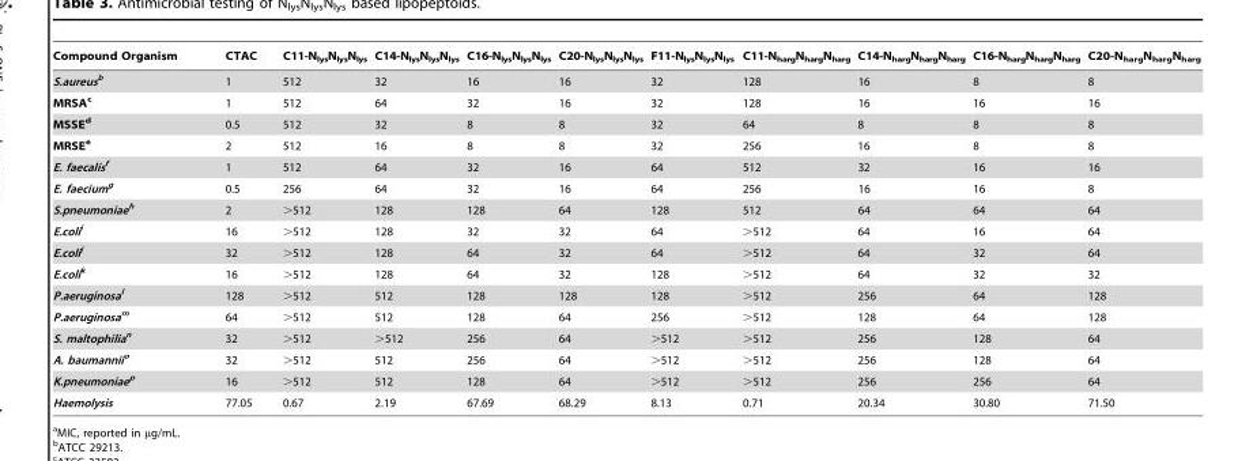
<table><thead><tr><td>Compound Organism</td><td>CTAC</td><td>C11-N<sub>lys</sub>N<sub>lys</sub>N<sub>lys</sub></td><td>C14-N<sub>lys</sub>N<sub>lys</sub>N<sub>lys</sub></td><td>C16-N<sub>lys</sub>N<sub>lys</sub>N<sub>lys</sub></td><td>C20-N<sub>lys</sub>N<sub>lys</sub>N<sub>lys</sub></td><td>F11-N<sub>lys</sub>N<sub>lys</sub>N<sub>lys</sub></td><td>C11-N<sub>harg</sub>N<sub>harg</sub>N<sub>harg</sub></td><td>C14-N<sub>harg</sub>N<sub>harg</sub>N<sub>harg</sub></td><td>C16-N<sub>harg</sub>N<sub>harg</sub>N<sub>harg</sub></td><td>C20-N<sub>harg</sub>N<sub>harg</sub>N<sub>harg</sub></td></tr></thead><tbody><tr><td>S.aureusb</td><td>1</td><td>512</td><td>32</td><td>16</td><td>16</td><td>32</td><td>128</td><td>16</td><td>8</td><td>8</td></tr><tr><td>MRSAc</td><td>1</td><td>512</td><td>64</td><td>32</td><td>16</td><td>32</td><td>128</td><td>16</td><td>16</td><td>16</td></tr><tr><td>MSSEd</td><td>0.5</td><td>512</td><td>32</td><td>8</td><td>8</td><td>32</td><td>64</td><td>8</td><td>8</td><td>8</td></tr><tr><td>MRSEe</td><td>2</td><td>512</td><td>16</td><td>8</td><td>8</td><td>32</td><td>256</td><td>16</td><td>8</td><td>8</td></tr><tr><td>E. faecalisf</td><td>1</td><td>512</td><td>64</td><td>32</td><td>16</td><td>64</td><td>512</td><td>32</td><td>16</td><td>16</td></tr><tr><td>E. faeciumg</td><td>0.5</td><td>256</td><td>64</td><td>32</td><td>16</td><td>64</td><td>256</td><td>16</td><td>16</td><td>8</td></tr><tr><td>S.pneumoniaeh</td><td>2</td><td>&gt;512</td><td>128</td><td>128</td><td>64</td><td>128</td><td>512</td><td>64</td><td>64</td><td>64</td></tr><tr><td>E.colii</td><td>16</td><td>&gt;512</td><td>128</td><td>32</td><td>32</td><td>64</td><td>&gt;512</td><td>64</td><td>16</td><td>64</td></tr><tr><td>E.colij</td><td>32</td><td>&gt;512</td><td>128</td><td>64</td><td>32</td><td>64</td><td>&gt;512</td><td>64</td><td>32</td><td>64</td></tr><tr><td>E.colik</td><td>16</td><td>&gt;512</td><td>128</td><td>64</td><td>32</td><td>128</td><td>&gt;512</td><td>64</td><td>32</td><td>32</td></tr><tr><td>P.aeruginosal</td><td>128</td><td>&gt;512</td><td>512</td><td>128</td><td>128</td><td>128</td><td>&gt;512</td><td>256</td><td>64</td><td>128</td></tr><tr><td>P.aeruginosam</td><td>64</td><td>&gt;512</td><td>512</td><td>128</td><td>64</td><td>256</td><td>&gt;512</td><td>128</td><td>64</td><td>128</td></tr><tr><td>S. maltophilian</td><td>32</td><td>&gt;512</td><td>&gt;512</td><td>256</td><td>64</td><td>&gt;512</td><td>&gt;512</td><td>256</td><td>128</td><td>64</td></tr><tr><td>A. baumanniio</td><td>32</td><td>&gt;512</td><td>512</td><td>256</td><td>64</td><td>&gt;512</td><td>&gt;512</td><td>256</td><td>128</td><td>64</td></tr><tr><td>K.pneumoniaep</td><td>16</td><td>&gt;512</td><td>512</td><td>128</td><td>64</td><td>&gt;512</td><td>&gt;512</td><td>256</td><td>256</td><td>64</td></tr><tr><td>Haemolysis</td><td>77.05</td><td>0.67</td><td>2.19</td><td>67.69</td><td>68.29</td><td>8.13</td><td>0.71</td><td>20.34</td><td>30.80</td><td>71.50</td></tr></tbody></table>